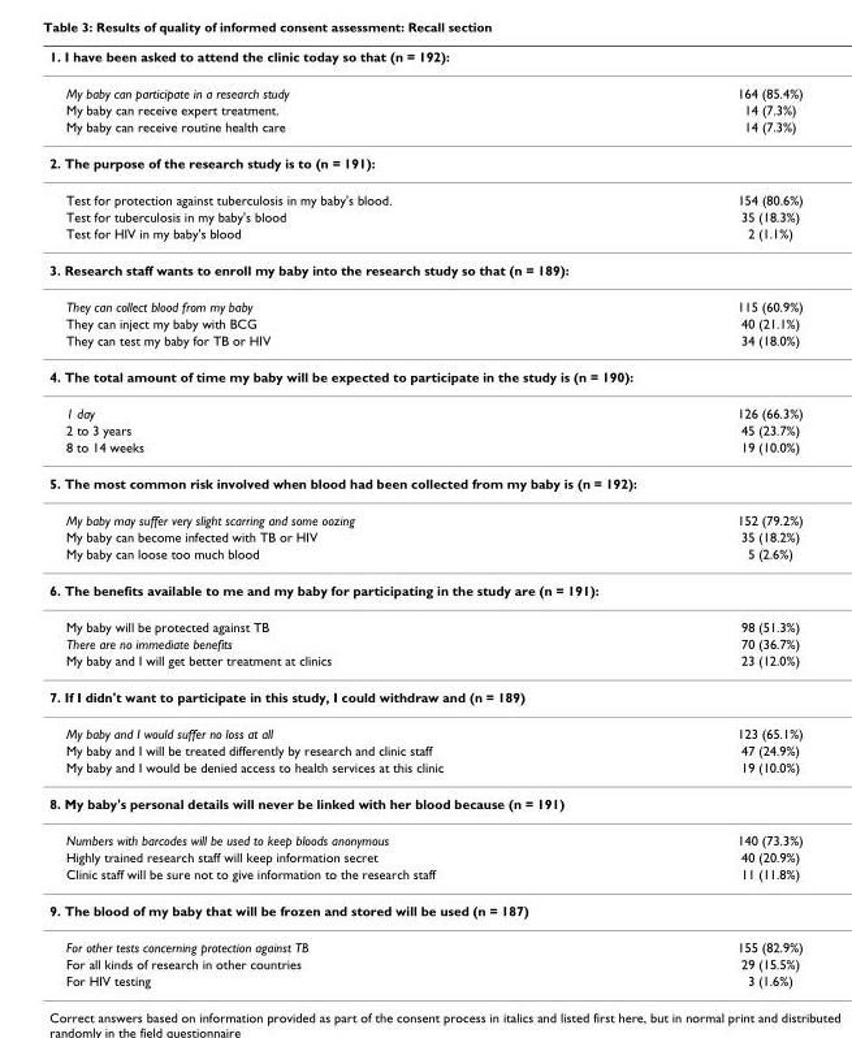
<table><thead><tr><td colspan="2">1. I have been asked to attend the clinic today so that (n = 192):</td></tr><tr><td>My baby can participate in a research study</td><td>164 (85.4%)</td></tr></thead><tbody><tr><td>My baby can receive expert treatment.</td><td>14 (7.3%)</td></tr><tr><td>My baby can receive routine health care</td><td>14 (7.3%)</td></tr><tr><td colspan="2">2. The purpose of the research study is to (n = 191):</td></tr><tr><td>Test for protection against tuberculosis in my baby&#x27;s blood.</td><td>154 (80.6%)</td></tr><tr><td>Test for tuberculosis in my baby&#x27;s blood</td><td>35 (18.3%)</td></tr><tr><td>Test for HIV in my baby&#x27;s blood</td><td>2 (1.1%)</td></tr><tr><td colspan="2">3. Research staff wants to enroll my baby into the research study so that (n = 189):</td></tr><tr><td>They can collect blood from my baby</td><td>115 (60.9%)</td></tr><tr><td>They can inject my baby with BCG</td><td>40 (21.1%)</td></tr><tr><td>They can test my baby for TB or HIV</td><td>34 (18.0%)</td></tr><tr><td colspan="2">4. The total amount of time my baby will be expected to participate in the study is (n = 190):</td></tr><tr><td>1 day</td><td>126 (66.3%)</td></tr><tr><td>2 to 3 years</td><td>45 (23.7%)</td></tr><tr><td>8 to 14 weeks</td><td>19 (10.0%)</td></tr><tr><td colspan="2">5. The most common risk involved when blood had been collected from my baby is (n = 192):</td></tr><tr><td>My baby may suffer very slight scarring and some oozing</td><td>152 (79.2%)</td></tr><tr><td>My baby can become infected with TB or HIV</td><td>35 (18.2%)</td></tr><tr><td>My baby can loose too much blood</td><td>5 (2.6%)</td></tr><tr><td colspan="2">6. The benefits available to me and my baby for participating in the study are (n = 191):</td></tr><tr><td>My baby will be protected against TB</td><td>98 (51.3%)</td></tr><tr><td>There are no immediate benefits</td><td>70 (36.7%)</td></tr><tr><td>My baby and I will get better treatment at clinics</td><td>23 (12.0%)</td></tr><tr><td colspan="2">7. If I didn&#x27;t want to participate in this study, I could withdraw and (n = 189)</td></tr><tr><td>My baby and I would suffer no loss at all</td><td>123 (65.1%)</td></tr><tr><td>My baby and I will be treated differently by research and clinic staff</td><td>47 (24.9%)</td></tr><tr><td>My baby and I would be denied access to health services at this clinic</td><td>19 (10.0%)</td></tr><tr><td colspan="2">8. My baby&#x27;s personal details will never be linked with her blood because (n = 191)</td></tr><tr><td>Numbers with barcodes will be used to keep bloods anonymous</td><td>140 (73.3%)</td></tr><tr><td>Highly trained research staff will keep information secret</td><td>40 (20.9%)</td></tr><tr><td>Clinic staff will be sure not to give information to the research staff</td><td>11 (11.8%)</td></tr><tr><td colspan="2">9. The blood of my baby that will be frozen and stored will be used (n = 187)</td></tr><tr><td>For other tests concerning protection against TB</td><td>155 (82.9%)</td></tr><tr><td>For all kinds of research in other countries</td><td>29 (15.5%)</td></tr><tr><td>For HIV testing</td><td>3 (1.6%)</td></tr></tbody></table>